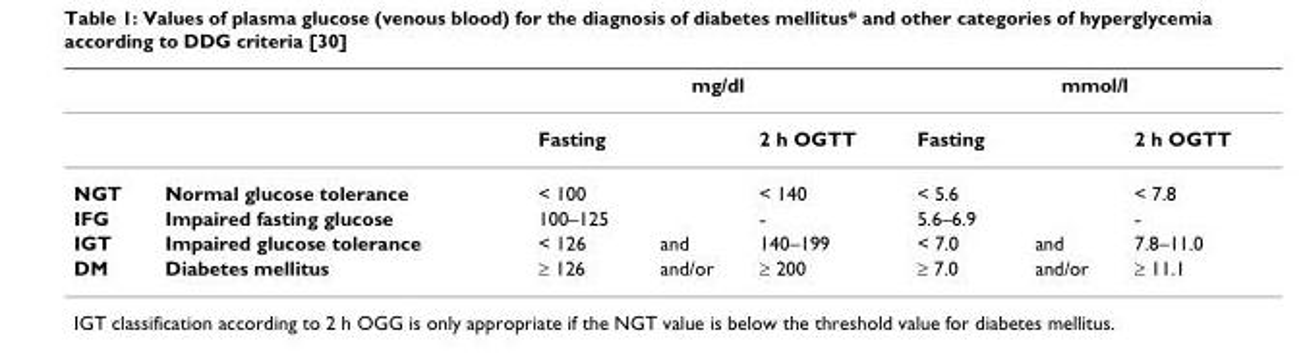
<table><thead><tr><td rowspan="2"></td><td rowspan="2"></td><td colspan="3">mg/dl</td><td colspan="3">mmol/l</td></tr><tr><td>Fasting</td><td></td><td>2 h OGTT</td><td>Fasting</td><td></td><td>2 h OGTT</td></tr></thead><tbody><tr><td>NGT</td><td>Normal glucose tolerance</td><td>&lt; 100</td><td></td><td>&lt; 140</td><td>&lt; 5.6</td><td></td><td>&lt; 7.8</td></tr><tr><td>IFG</td><td>Impaired fasting glucose</td><td>100–125</td><td></td><td>-</td><td>5.6–6.9</td><td></td><td>-</td></tr><tr><td>IGT</td><td>Impaired glucose tolerance</td><td>&lt; 126</td><td>and</td><td>140–199</td><td>&lt; 7.0</td><td>and</td><td>7.8–11.0</td></tr><tr><td>DM</td><td>Diabetes mellitus</td><td>≥ 126</td><td>and/or</td><td>≥ 200</td><td>≥ 7.0</td><td>and/or</td><td>≥ 11.1</td></tr></tbody></table>